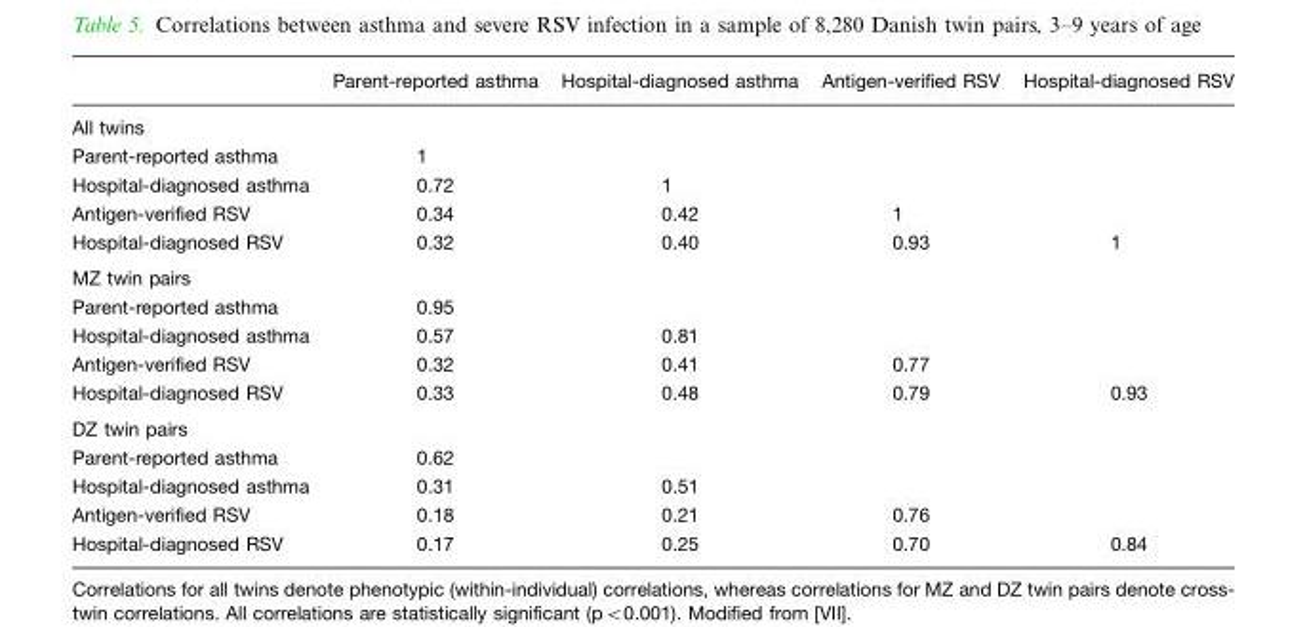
<table><thead><tr><td></td><td>Parent-reported asthma</td><td>Hospital-diagnosed asthma</td><td>Antigen-verified RSV</td><td>Hospital-diagnosed RSV</td></tr></thead><tbody><tr><td colspan="5">All twins</td></tr><tr><td>Parent-reported asthma</td><td>1</td><td></td><td></td><td></td></tr><tr><td>Hospital-diagnosed asthma</td><td>0.72</td><td>1</td><td></td><td></td></tr><tr><td>Antigen-verified RSV</td><td>0.34</td><td>0.42</td><td>1</td><td></td></tr><tr><td>Hospital-diagnosed RSV</td><td>0.32</td><td>0.40</td><td>0.93</td><td>1</td></tr><tr><td colspan="5">MZ twin pairs</td></tr><tr><td>Parent-reported asthma</td><td>0.95</td><td></td><td></td><td></td></tr><tr><td>Hospital-diagnosed asthma</td><td>0.57</td><td>0.81</td><td></td><td></td></tr><tr><td>Antigen-verified RSV</td><td>0.32</td><td>0.41</td><td>0.77</td><td></td></tr><tr><td>Hospital-diagnosed RSV</td><td>0.33</td><td>0.48</td><td>0.79</td><td>0.93</td></tr><tr><td colspan="5">DZ twin pairs</td></tr><tr><td>Parent-reported asthma</td><td>0.62</td><td></td><td></td><td></td></tr><tr><td>Hospital-diagnosed asthma</td><td>0.31</td><td>0.51</td><td></td><td></td></tr><tr><td>Antigen-verified RSV</td><td>0.18</td><td>0.21</td><td>0.76</td><td></td></tr><tr><td>Hospital-diagnosed RSV</td><td>0.17</td><td>0.25</td><td>0.70</td><td>0.84</td></tr></tbody></table>